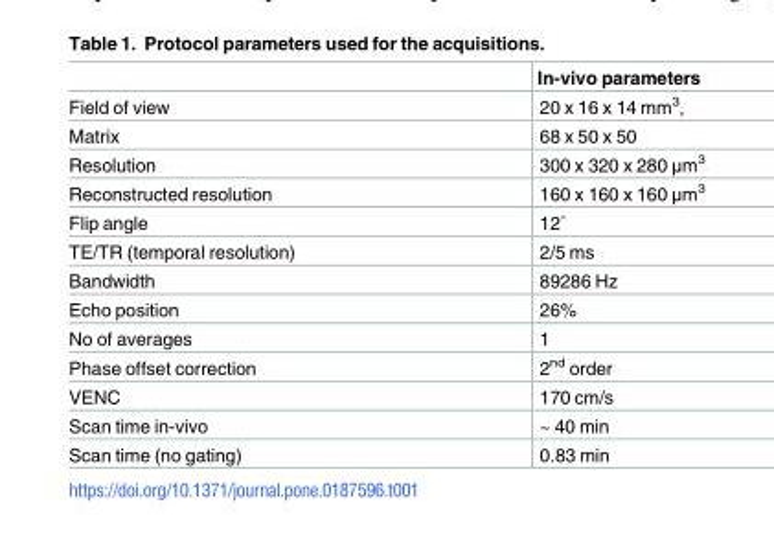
<table><thead><tr><td></td><td>In-vivo parameters</td></tr></thead><tbody><tr><td>Field of view</td><td>20 x 16 x 14 mm<sup>3</sup>,</td></tr><tr><td>Matrix</td><td>68 x 50 x 50</td></tr><tr><td>Resolution</td><td>300 x 320 x 280 μm<sup>3</sup></td></tr><tr><td>Reconstructed resolution</td><td>160 x 160 x 160 μm<sup>3</sup></td></tr><tr><td>Flip angle</td><td>12˚</td></tr><tr><td>TE/TR (temporal resolution)</td><td>2/5 ms</td></tr><tr><td>Bandwidth</td><td>89286 Hz</td></tr><tr><td>Echo position</td><td>26%</td></tr><tr><td>No of averages</td><td>1</td></tr><tr><td>Phase offset correction</td><td>2<sup>nd</sup> order</td></tr><tr><td>VENC</td><td>170 cm/s</td></tr><tr><td>Scan time in-vivo</td><td>~ 40 min</td></tr><tr><td>Scan time (no gating)</td><td>0.83 min</td></tr></tbody></table>